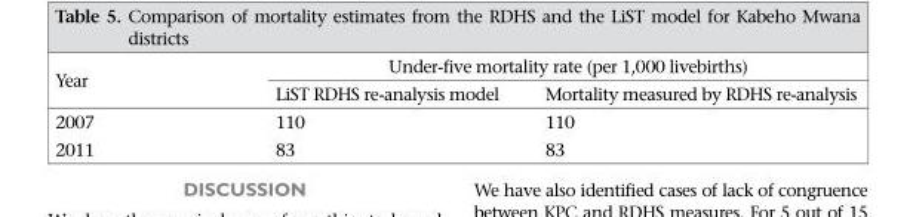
<table><thead><tr><td rowspan="2">Year</td><td colspan="2">Under-five mortality rate (per 1,000 livebirths)</td></tr><tr><td>LiST RDHS re-analysis model</td><td>Mortality measured by RDHS re-analysis</td></tr></thead><tbody><tr><td>2007</td><td>110</td><td>110</td></tr><tr><td>2011</td><td>83</td><td>83</td></tr></tbody></table>